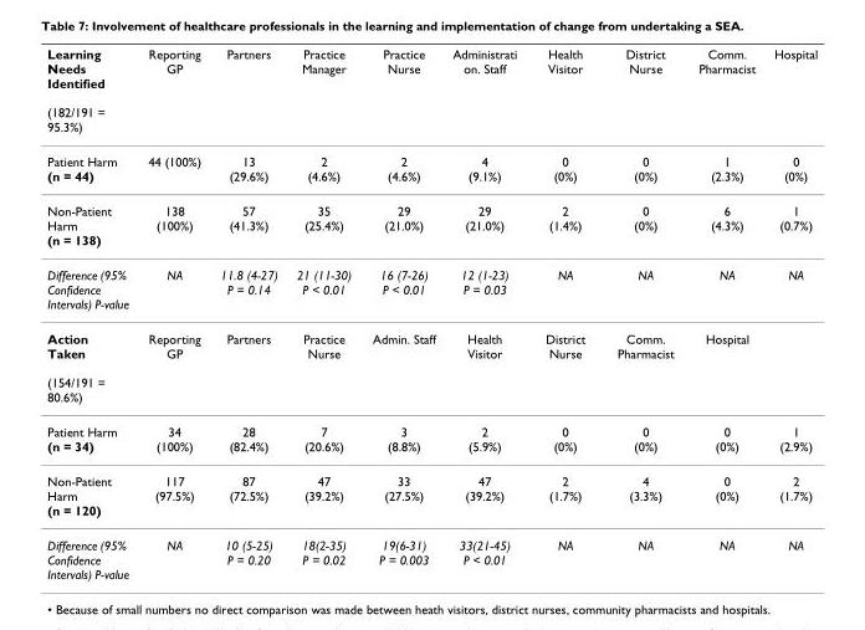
<table><thead><tr><td>Learning Needs Identified (182/191 = 95.3%)</td><td>Reporting GP</td><td>Partners</td><td>Practice Manager</td><td>Practice Nurse</td><td>Administrati on. Staff</td><td>Health Visitor</td><td>District Nurse</td><td>Comm. Pharmacist</td><td>Hospital</td></tr></thead><tbody><tr><td>Patient Harm (n = 44)</td><td>44 (100%)</td><td>13 (29.6%)</td><td>2 (4.6%)</td><td>2 (4.6%)</td><td>4 (9.1%)</td><td>0 (0%)</td><td>0 (0%)</td><td>1 (2.3%)</td><td>0 (0%)</td></tr><tr><td>Non-Patient Harm (n = 138)</td><td>138 (100%)</td><td>57 (41.3%)</td><td>35 (25.4%)</td><td>29 (21.0%)</td><td>29 (21.0%)</td><td>2 (1.4%)</td><td>0 (0%)</td><td>6 (4.3%)</td><td>1 (0.7%)</td></tr><tr><td>Difference (95% Confidence Intervals) P-value</td><td>NA</td><td>11.8 (4-27) P = 0.14</td><td>21 (11-30) P &lt; 0.01</td><td>16 (7-26) P &lt; 0.01</td><td>12 (1-23) P = 0.03</td><td>NA</td><td>NA</td><td>NA</td><td>NA</td></tr><tr><td>Action Taken (154/191 = 80.6%)</td><td>Reporting GP</td><td>Partners</td><td>Practice Nurse</td><td>Admin. Staff</td><td>Health Visitor</td><td>District Nurse</td><td>Comm. Pharmacist</td><td>Hospital</td><td></td></tr><tr><td>Patient Harm (n = 34)</td><td>34 (100%)</td><td>28 (82.4%)</td><td>7 (20.6%)</td><td>3 (8.8%)</td><td>2 (5.9%)</td><td>0 (0%)</td><td>0 (0%)</td><td>0 (0%)</td><td>1 (2.9%)</td></tr><tr><td>Non-Patient Harm (n = 120)</td><td>117 (97.5%)</td><td>87 (72.5%)</td><td>47 (39.2%)</td><td>33 (27.5%)</td><td>47 (39.2%)</td><td>2 (1.7%)</td><td>4 (3.3%)</td><td>0 (0%)</td><td>2 (1.7%)</td></tr><tr><td>Difference (95% Confidence Intervals) P-value</td><td>NA</td><td>10 (5-25) P = 0.20</td><td>18(2-35) P = 0.02</td><td>19(6-31) P = 0.003</td><td>33(21-45) P &lt; 0.01</td><td>NA</td><td>NA</td><td>NA</td><td>NA</td></tr></tbody></table>